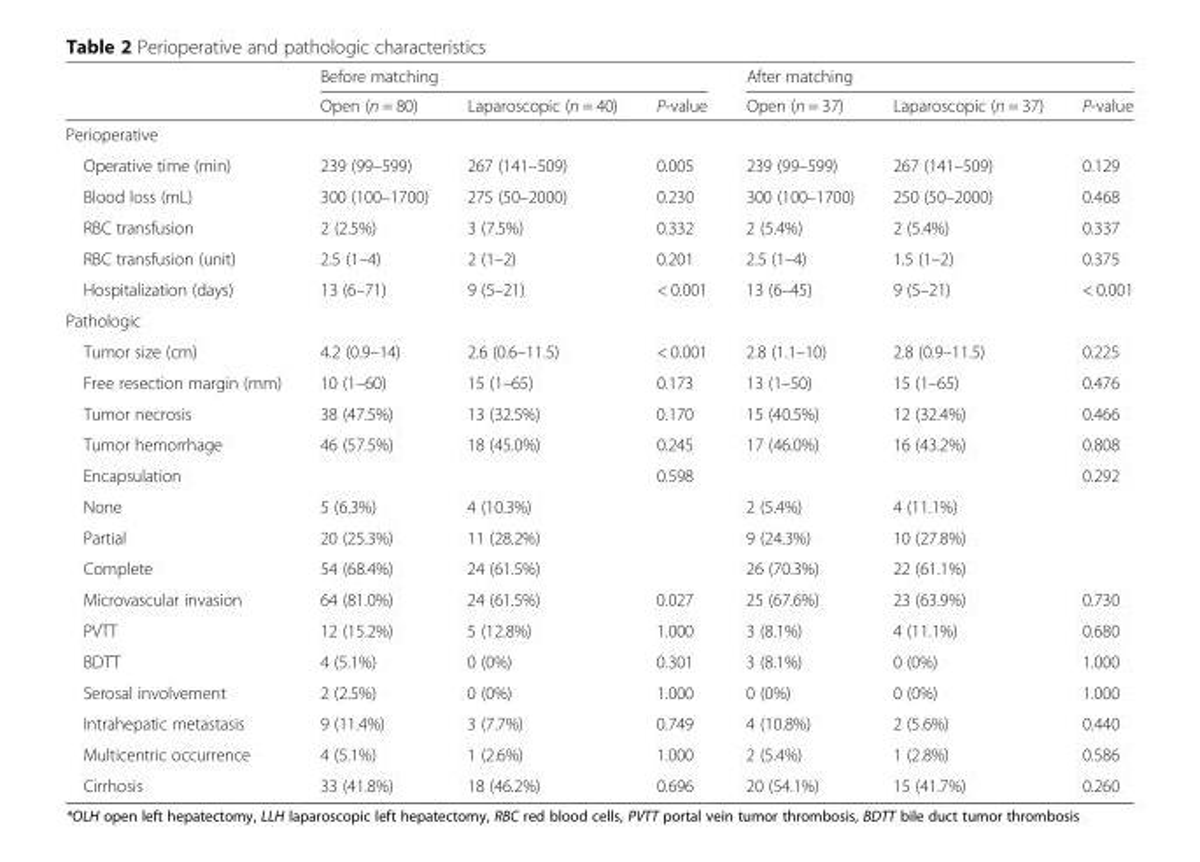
<table><thead><tr><td rowspan="2"></td><td colspan="3">Before matching</td><td colspan="3">After matching</td></tr><tr><td>Open (n = 80)</td><td>Laparoscopic (n = 40)</td><td>P-value</td><td>Open (n = 37)</td><td>Laparoscopic (n = 37)</td><td>P-value</td></tr></thead><tbody><tr><td colspan="7">Perioperative</td></tr><tr><td>Operative time (min)</td><td>239 (99–599)</td><td>267 (141–509)</td><td>0.005</td><td>239 (99–599)</td><td>267 (141–509)</td><td>0.129</td></tr><tr><td>Blood loss (mL)</td><td>300 (100–1700)</td><td>275 (50–2000)</td><td>0.230</td><td>300 (100–1700)</td><td>250 (50–2000)</td><td>0.468</td></tr><tr><td>RBC transfusion</td><td>2 (2.5%)</td><td>3 (7.5%)</td><td>0.332</td><td>2 (5.4%)</td><td>2 (5.4%)</td><td>0.337</td></tr><tr><td>RBC transfusion (unit)</td><td>2.5 (1–4)</td><td>2 (1–2)</td><td>0.201</td><td>2.5 (1–4)</td><td>1.5 (1–2)</td><td>0.375</td></tr><tr><td>Hospitalization (days)</td><td>13 (6–71)</td><td>9 (5–21)</td><td>&lt; 0.001</td><td>13 (6–45)</td><td>9 (5–21)</td><td>&lt; 0.001</td></tr><tr><td colspan="7">Pathologic</td></tr><tr><td>Tumor size (cm)</td><td>4.2 (0.9–14)</td><td>2.6 (0.6–11.5)</td><td>&lt; 0.001</td><td>2.8 (1.1–10)</td><td>2.8 (0.9–11.5)</td><td>0.225</td></tr><tr><td>Free resection margin (mm)</td><td>10 (1–60)</td><td>15 (1–65)</td><td>0.173</td><td>13 (1–50)</td><td>15 (1–65)</td><td>0.476</td></tr><tr><td>Tumor necrosis</td><td>38 (47.5%)</td><td>13 (32.5%)</td><td>0.170</td><td>15 (40.5%)</td><td>12 (32.4%)</td><td>0.466</td></tr><tr><td>Tumor hemorrhage</td><td>46 (57.5%)</td><td>18 (45.0%)</td><td>0.245</td><td>17 (46.0%)</td><td>16 (43.2%)</td><td>0.808</td></tr><tr><td>Encapsulation</td><td></td><td></td><td>0.598</td><td></td><td></td><td>0.292</td></tr><tr><td>None</td><td>5 (6.3%)</td><td>4 (10.3%)</td><td></td><td>2 (5.4%)</td><td>4 (11.1%)</td><td></td></tr><tr><td>Partial</td><td>20 (25.3%)</td><td>11 (28.2%)</td><td></td><td>9 (24.3%)</td><td>10 (27.8%)</td><td></td></tr><tr><td>Complete</td><td>54 (68.4%)</td><td>24 (61.5%)</td><td></td><td>26 (70.3%)</td><td>22 (61.1%)</td><td></td></tr><tr><td>Microvascular invasion</td><td>64 (81.0%)</td><td>24 (61.5%)</td><td>0.027</td><td>25 (67.6%)</td><td>23 (63.9%)</td><td>0.730</td></tr><tr><td>PVTT</td><td>12 (15.2%)</td><td>5 (12.8%)</td><td>1.000</td><td>3 (8.1%)</td><td>4 (11.1%)</td><td>0.680</td></tr><tr><td>BDTT</td><td>4 (5.1%)</td><td>0 (0%)</td><td>0.301</td><td>3 (8.1%)</td><td>0 (0%)</td><td>1.000</td></tr><tr><td>Serosal involvement</td><td>2 (2.5%)</td><td>0 (0%)</td><td>1.000</td><td>0 (0%)</td><td>0 (0%)</td><td>1.000</td></tr><tr><td>Intrahepatic metastasis</td><td>9 (11.4%)</td><td>3 (7.7%)</td><td>0.749</td><td>4 (10.8%)</td><td>2 (5.6%)</td><td>0.440</td></tr><tr><td>Multicentric occurrence</td><td>4 (5.1%)</td><td>1 (2.6%)</td><td>1.000</td><td>2 (5.4%)</td><td>1 (2.8%)</td><td>0.586</td></tr><tr><td>Cirrhosis</td><td>33 (41.8%)</td><td>18 (46.2%)</td><td>0.696</td><td>20 (54.1%)</td><td>15 (41.7%)</td><td>0.260</td></tr></tbody></table>